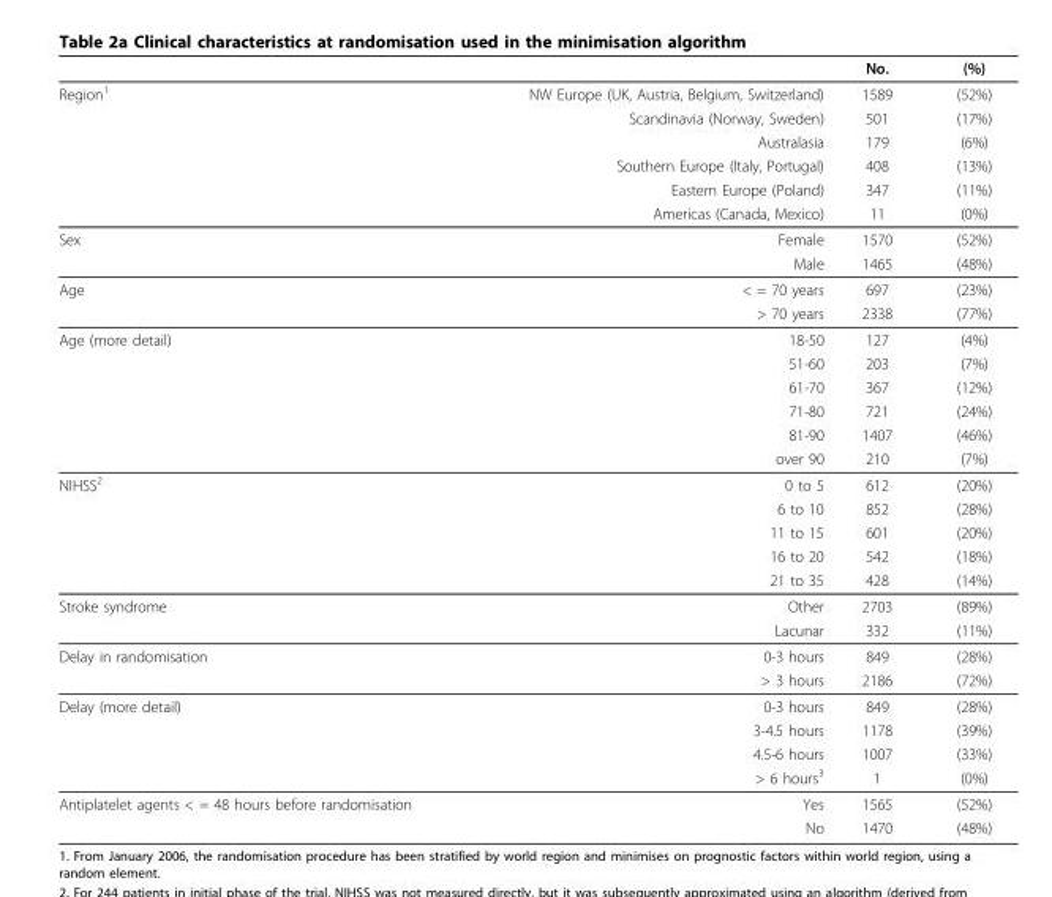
<table><thead><tr><td></td><td></td><td>No.</td><td>(%)</td></tr></thead><tbody><tr><td rowspan="6">Region<sup>1</sup></td><td>NW Europe (UK, Austria, Belgium, Switzerland)</td><td>1589</td><td>(52%)</td></tr><tr><td>Scandinavia (Norway, Sweden)</td><td>501</td><td>(17%)</td></tr><tr><td>Australasia</td><td>179</td><td>(6%)</td></tr><tr><td>Southern Europe (Italy, Portugal)</td><td>408</td><td>(13%)</td></tr><tr><td>Eastern Europe (Poland)</td><td>347</td><td>(11%)</td></tr><tr><td>Americas (Canada, Mexico)</td><td>11</td><td>(0%)</td></tr><tr><td rowspan="2">Sex</td><td>Female</td><td>1570</td><td>(52%)</td></tr><tr><td>Male</td><td>1465</td><td>(48%)</td></tr><tr><td rowspan="2">Age</td><td>&lt; = 70 years</td><td>697</td><td>(23%)</td></tr><tr><td>&gt; 70 years</td><td>2338</td><td>(77%)</td></tr><tr><td rowspan="6">Age (more detail)</td><td>18-50</td><td>127</td><td>(4%)</td></tr><tr><td>51-60</td><td>203</td><td>(7%)</td></tr><tr><td>61-70</td><td>367</td><td>(12%)</td></tr><tr><td>71-80</td><td>721</td><td>(24%)</td></tr><tr><td>81-90</td><td>1407</td><td>(46%)</td></tr><tr><td>over 90</td><td>210</td><td>(7%)</td></tr><tr><td rowspan="5">NIHSS<sup>2</sup></td><td>0 to 5</td><td>612</td><td>(20%)</td></tr><tr><td>6 to 10</td><td>852</td><td>(28%)</td></tr><tr><td>11 to 15</td><td>601</td><td>(20%)</td></tr><tr><td>16 to 20</td><td>542</td><td>(18%)</td></tr><tr><td>21 to 35</td><td>428</td><td>(14%)</td></tr><tr><td rowspan="2">Stroke syndrome</td><td>Other</td><td>2703</td><td>(89%)</td></tr><tr><td>Lacunar</td><td>332</td><td>(11%)</td></tr><tr><td rowspan="2">Delay in randomisation</td><td>0-3 hours</td><td>849</td><td>(28%)</td></tr><tr><td>&gt; 3 hours</td><td>2186</td><td>(72%)</td></tr><tr><td rowspan="4">Delay (more detail)</td><td>0-3 hours</td><td>849</td><td>(28%)</td></tr><tr><td>3-4.5 hours</td><td>1178</td><td>(39%)</td></tr><tr><td>4.5-6 hours</td><td>1007</td><td>(33%)</td></tr><tr><td>&gt; 6 hours<sup>3</sup></td><td>1</td><td>(0%)</td></tr><tr><td rowspan="2">Antiplatelet agents &lt; = 48 hours before randomisation</td><td>Yes</td><td>1565</td><td>(52%)</td></tr><tr><td>No</td><td>1470</td><td>(48%)</td></tr></tbody></table>